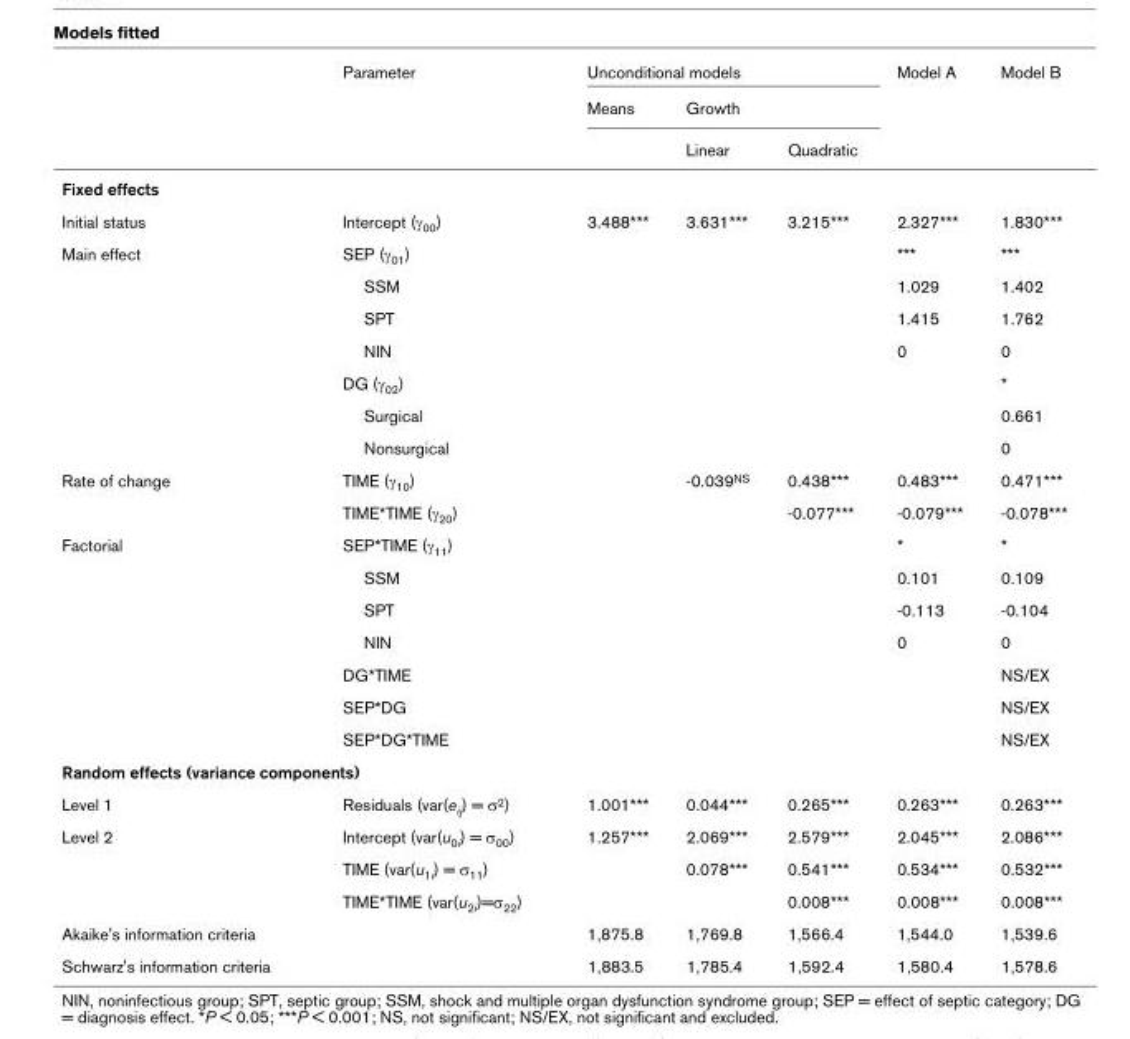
<table><thead><tr><td rowspan="3"></td><td rowspan="3">Parameter</td><td colspan="3">Unconditional models</td><td rowspan="3">Model A</td><td rowspan="3">Model B</td></tr><tr><td rowspan="2">Means</td><td colspan="2">Growth</td></tr><tr><td>Linear</td><td>Quadratic</td></tr></thead><tbody><tr><td colspan="7">Fixed effects</td></tr><tr><td>Initial status</td><td>Intercept (γ<sub>00</sub>)</td><td>3.488***</td><td>3.631***</td><td>3.215***</td><td>2.327***</td><td>1.830***</td></tr><tr><td rowspan="7">Main effect</td><td>SEP (γ<sub>01</sub>)</td><td></td><td></td><td></td><td>***</td><td>***</td></tr><tr><td>SSM</td><td></td><td></td><td></td><td>1.029</td><td>1.402</td></tr><tr><td>SPT</td><td></td><td></td><td></td><td>1.415</td><td>1.762</td></tr><tr><td>NIN</td><td></td><td></td><td></td><td>0</td><td>0</td></tr><tr><td>DG (γ<sub>02</sub>)</td><td></td><td></td><td></td><td></td><td>*</td></tr><tr><td>Surgical</td><td></td><td></td><td></td><td></td><td>0.661</td></tr><tr><td>Nonsurgical</td><td></td><td></td><td></td><td></td><td>0</td></tr><tr><td rowspan="2">Rate of change</td><td>TIME (γ<sub>10</sub>)</td><td></td><td>-0.039<sup>NS</sup></td><td>0.438***</td><td>0.483***</td><td>0.471***</td></tr><tr><td>TIME*TIME (γ<sub>20</sub>)</td><td></td><td></td><td>-0.077***</td><td>-0.079***</td><td>-0.078***</td></tr><tr><td rowspan="7">Factorial</td><td>SEP*TIME (γ<sub>11</sub>)</td><td></td><td></td><td></td><td>*</td><td>*</td></tr><tr><td>SSM</td><td></td><td></td><td></td><td>0.101</td><td>0.109</td></tr><tr><td>SPT</td><td></td><td></td><td></td><td>-0.113</td><td>-0.104</td></tr><tr><td>NIN</td><td></td><td></td><td></td><td>0</td><td>0</td></tr><tr><td>DG*TIME</td><td></td><td></td><td></td><td></td><td>NS/EX</td></tr><tr><td>SEP*DG</td><td></td><td></td><td></td><td></td><td>NS/EX</td></tr><tr><td>SEP*DG*TIME</td><td></td><td></td><td></td><td></td><td>NS/EX</td></tr><tr><td colspan="7">Random effects (variance components)</td></tr><tr><td>Level 1</td><td>Residuals (var(e<sub>ij</sub>) = σ<sup>2</sup>)</td><td>1.001***</td><td>0.044***</td><td>0.265***</td><td>0.263***</td><td>0.263***</td></tr><tr><td rowspan="3">Level 2</td><td>Intercept (var(u<sub>0i</sub>) = σ<sub>00</sub>)</td><td>1.257***</td><td>2.069***</td><td>2.579***</td><td>2.045***</td><td>2.086***</td></tr><tr><td>TIME (var(u<sub>1i</sub>) = σ<sub>11</sub>)</td><td></td><td>0.078***</td><td>0.541***</td><td>0.534***</td><td>0.532***</td></tr><tr><td>TIME*TIME (var(u<sub>2i</sub>)=σ<sub>22</sub>)</td><td></td><td></td><td>0.008***</td><td>0.008***</td><td>0.008***</td></tr><tr><td>Akaike&#x27;s information criteria</td><td></td><td>1,875.8</td><td>1,769.8</td><td>1,566.4</td><td>1,544.0</td><td>1,539.6</td></tr><tr><td>Schwarz&#x27;s information criteria</td><td></td><td>1,883.5</td><td>1,785.4</td><td>1,592.4</td><td>1,580.4</td><td>1,578.6</td></tr></tbody></table>